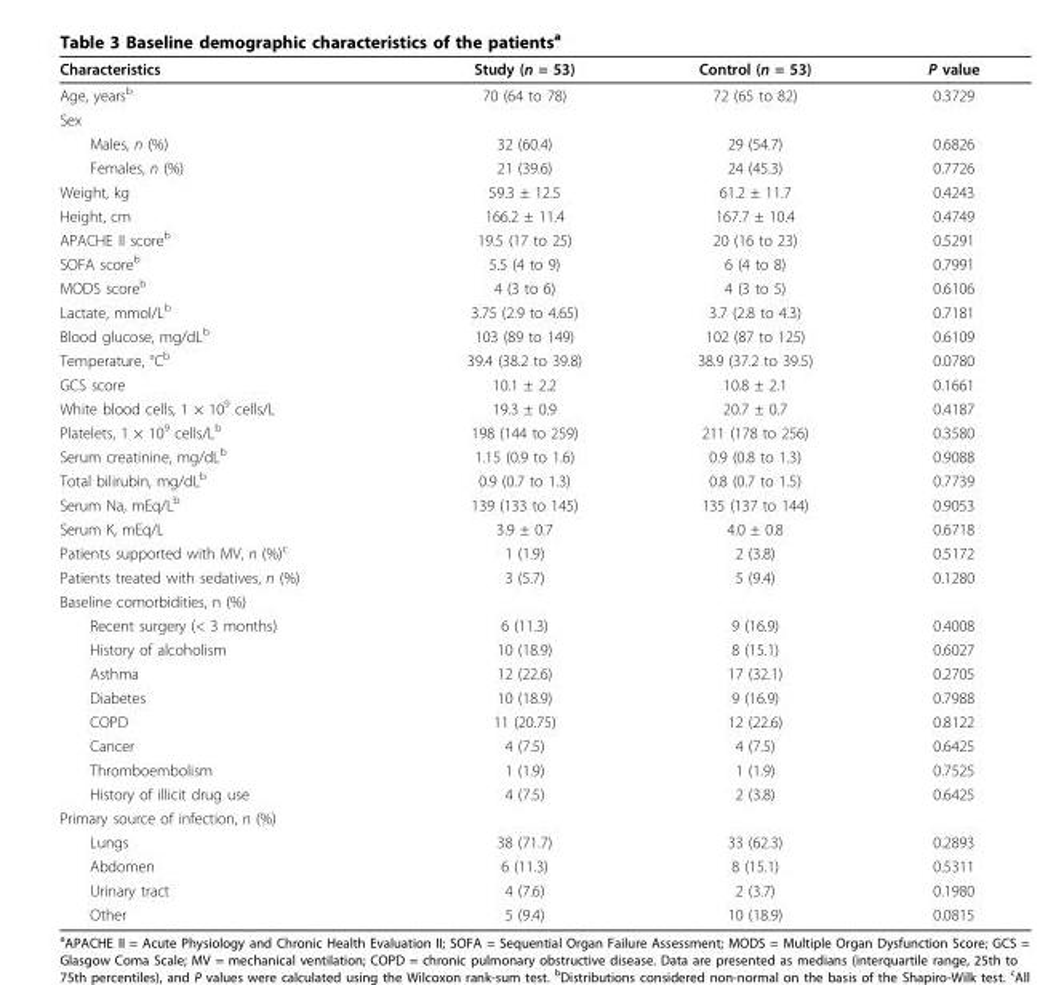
<table><thead><tr><td>Characteristics</td><td>Study (n = 53)</td><td>Control (n = 53)</td><td>P value</td></tr></thead><tbody><tr><td>Age, years<sup>b</sup></td><td>70 (64 to 78)</td><td>72 (65 to 82)</td><td>0.3729</td></tr><tr><td colspan="4">Sex</td></tr><tr><td>Males, n (%)</td><td>32 (60.4)</td><td>29 (54.7)</td><td>0.6826</td></tr><tr><td>Females, n (%)</td><td>21 (39.6)</td><td>24 (45.3)</td><td>0.7726</td></tr><tr><td>Weight, kg</td><td>59.3 ± 12.5</td><td>61.2 ± 11.7</td><td>0.4243</td></tr><tr><td>Height, cm</td><td>166.2 ± 11.4</td><td>167.7 ± 10.4</td><td>0.4749</td></tr><tr><td>APACHE II score<sup>b</sup></td><td>19.5 (17 to 25)</td><td>20 (16 to 23)</td><td>0.5291</td></tr><tr><td>SOFA score<sup>b</sup></td><td>5.5 (4 to 9)</td><td>6 (4 to 8)</td><td>0.7991</td></tr><tr><td>MODS score<sup>b</sup></td><td>4 (3 to 6)</td><td>4 (3 to 5)</td><td>0.6106</td></tr><tr><td>Lactate, mmol/L<sup>b</sup></td><td>3.75 (2.9 to 4.65)</td><td>3.7 (2.8 to 4.3)</td><td>0.7181</td></tr><tr><td>Blood glucose, mg/dL<sup>b</sup></td><td>103 (89 to 149)</td><td>102 (87 to 125)</td><td>0.6109</td></tr><tr><td>Temperature, °C<sup>b</sup></td><td>39.4 (38.2 to 39.8)</td><td>38.9 (37.2 to 39.5)</td><td>0.0780</td></tr><tr><td>GCS score</td><td>10.1 ± 2.2</td><td>10.8 ± 2.1</td><td>0.1661</td></tr><tr><td>White blood cells, 1 × 10<sup>9</sup> cells/L</td><td>19.3 ± 0.9</td><td>20.7 ± 0.7</td><td>0.4187</td></tr><tr><td>Platelets, 1 × 10<sup>9</sup> cells/L<sup>b</sup></td><td>198 (144 to 259)</td><td>211 (178 to 256)</td><td>0.3580</td></tr><tr><td>Serum creatinine, mg/dL<sup>b</sup></td><td>1.15 (0.9 to 1.6)</td><td>0.9 (0.8 to 1.3)</td><td>0.9088</td></tr><tr><td>Total bilirubin, mg/dL<sup>b</sup></td><td>0.9 (0.7 to 1.3)</td><td>0.8 (0.7 to 1.5)</td><td>0.7739</td></tr><tr><td>Serum Na, mEq/L<sup>b</sup></td><td>139 (133 to 145)</td><td>135 (137 to 144)</td><td>0.9053</td></tr><tr><td>Serum K, mEq/L</td><td>3.9 ± 0.7</td><td>4.0 ± 0.8</td><td>0.6718</td></tr><tr><td>Patients supported with MV, n (%)<sup>c</sup></td><td>1 (1.9)</td><td>2 (3.8)</td><td>0.5172</td></tr><tr><td>Patients treated with sedatives, n (%)</td><td>3 (5.7)</td><td>5 (9.4)</td><td>0.1280</td></tr><tr><td colspan="4">Baseline comorbidities, n (%)</td></tr><tr><td>Recent surgery (&lt; 3 months)</td><td>6 (11.3)</td><td>9 (16.9)</td><td>0.4008</td></tr><tr><td>History of alcoholism</td><td>10 (18.9)</td><td>8 (15.1)</td><td>0.6027</td></tr><tr><td>Asthma</td><td>12 (22.6)</td><td>17 (32.1)</td><td>0.2705</td></tr><tr><td>Diabetes</td><td>10 (18.9)</td><td>9 (16.9)</td><td>0.7988</td></tr><tr><td>COPD</td><td>11 (20.75)</td><td>12 (22.6)</td><td>0.8122</td></tr><tr><td>Cancer</td><td>4 (7.5)</td><td>4 (7.5)</td><td>0.6425</td></tr><tr><td>Thromboembolism</td><td>1 (1.9)</td><td>1 (1.9)</td><td>0.7525</td></tr><tr><td>History of illicit drug use</td><td>4 (7.5)</td><td>2 (3.8)</td><td>0.6425</td></tr><tr><td colspan="4">Primary source of infection, n (%)</td></tr><tr><td>Lungs</td><td>38 (71.7)</td><td>33 (62.3)</td><td>0.2893</td></tr><tr><td>Abdomen</td><td>6 (11.3)</td><td>8 (15.1)</td><td>0.5311</td></tr><tr><td>Urinary tract</td><td>4 (7.6)</td><td>2 (3.7)</td><td>0.1980</td></tr><tr><td>Other</td><td>5 (9.4)</td><td>10 (18.9)</td><td>0.0815</td></tr></tbody></table>